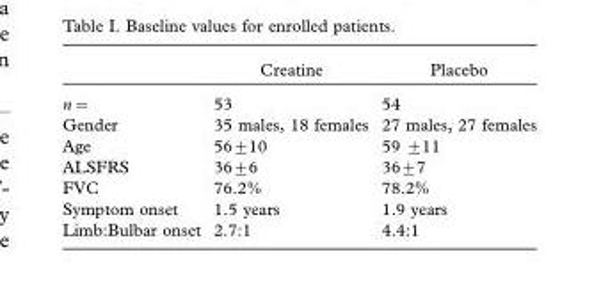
<table><thead><tr><td></td><td>Creatine</td><td>Placebo</td></tr></thead><tbody><tr><td>n=</td><td>53</td><td>54</td></tr><tr><td>Gender</td><td>35 males, 18 females</td><td>27 males, 27 females</td></tr><tr><td>Age</td><td>56±10</td><td>59 ±11</td></tr><tr><td>ALSFRS</td><td>36±6</td><td>36±7</td></tr><tr><td>FVC</td><td>76.2%</td><td>78.2%</td></tr><tr><td>Symptom onset</td><td>1.5 years</td><td>1.9 years</td></tr><tr><td>Limb:Bulbar onset</td><td>2.7:1</td><td>4.4:1</td></tr></tbody></table>